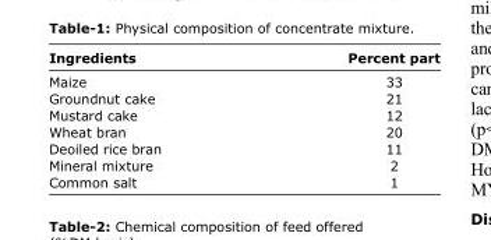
<table><thead><tr><td>Ingredients</td><td>Percent part</td></tr></thead><tbody><tr><td>Maize</td><td>33</td></tr><tr><td>Groundnut cake</td><td>21</td></tr><tr><td>Mustard cake</td><td>12</td></tr><tr><td>Wheat bran</td><td>20</td></tr><tr><td>Deoiled rice bran</td><td>11</td></tr><tr><td>Mineral mixture</td><td>2</td></tr><tr><td>Common salt</td><td>1</td></tr></tbody></table>